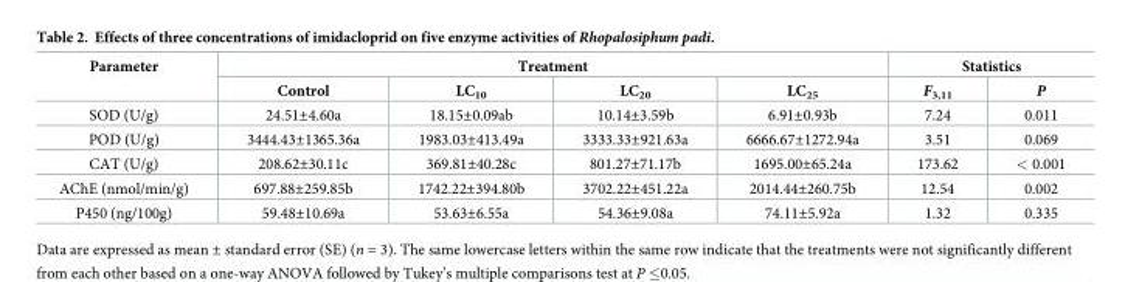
<table><thead><tr><td rowspan="2">Parameter</td><td colspan="4">Treatment</td><td colspan="2">Statistics</td></tr><tr><td>Control</td><td>LC<sub>10</sub></td><td>LC<sub>20</sub></td><td>LC<sub>25</sub></td><td>F<sub>3,11</sub></td><td>P</td></tr></thead><tbody><tr><td>SOD (U/g)</td><td>24.51±4.60a</td><td>18.15±0.09ab</td><td>10.14±3.59b</td><td>6.91±0.93b</td><td>7.24</td><td>0.011</td></tr><tr><td>POD (U/g)</td><td>3444.43±1365.36a</td><td>1983.03±413.49a</td><td>3333.33±921.63a</td><td>6666.67±1272.94a</td><td>3.51</td><td>0.069</td></tr><tr><td>CAT (U/g)</td><td>208.62±30.11c</td><td>369.81±40.28c</td><td>801.27±71.17b</td><td>1695.00±65.24a</td><td>173.62</td><td>&lt; 0.001</td></tr><tr><td>AChE (nmol/min/g)</td><td>697.88±259.85b</td><td>1742.22±394.80b</td><td>3702.22±451.22a</td><td>2014.44±260.75b</td><td>12.54</td><td>0.002</td></tr><tr><td>P450 (ng/100g)</td><td>59.48±10.69a</td><td>53.63±6.55a</td><td>54.36±9.08a</td><td>74.11±5.92a</td><td>1.32</td><td>0.335</td></tr></tbody></table>